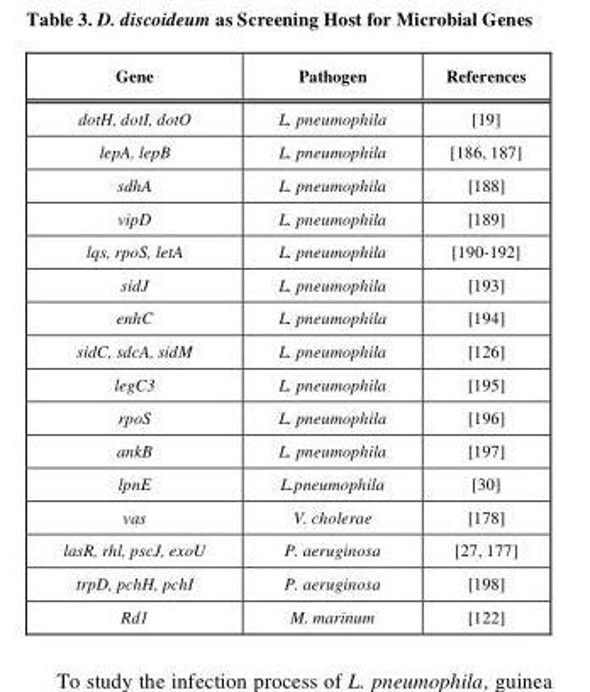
<table><thead><tr><td>Gene</td><td>Pathogen</td><td>References</td></tr></thead><tbody><tr><td>dotH, dotI, dotO</td><td>L. pneumophila</td><td>[19]</td></tr><tr><td>lepA, lepB</td><td>L. pneumophila</td><td>[186, 187]</td></tr><tr><td>sdhA</td><td>L. pneumophila</td><td>[188]</td></tr><tr><td>vipD</td><td>L. pneumophila</td><td>[189]</td></tr><tr><td>lqs, rpoS, letA</td><td>L. pneumophila</td><td>[190-192]</td></tr><tr><td>sidJ</td><td>L. pneumophila</td><td>[193]</td></tr><tr><td>enhC</td><td>L. pneumophila</td><td>[194]</td></tr><tr><td>sidC, sdcA, sidM</td><td>L. pneumophila</td><td>[126]</td></tr><tr><td>legC3</td><td>L. pneumophila</td><td>[195]</td></tr><tr><td>rpoS</td><td>L. pneumophila</td><td>[196]</td></tr><tr><td>ankB</td><td>L. pneumophila</td><td>[197]</td></tr><tr><td>lpnE</td><td>L.pneumophila</td><td>[30]</td></tr><tr><td>vas</td><td>V. cholerae</td><td>[178]</td></tr><tr><td>lasR, rhl, pscJ, exoU</td><td>P. aeruginosa</td><td>[27, 177]</td></tr><tr><td>trpD, pchH, pchI</td><td>P. aeruginosa</td><td>[198]</td></tr><tr><td>Rd1</td><td>M. marinum</td><td>[122]</td></tr></tbody></table>